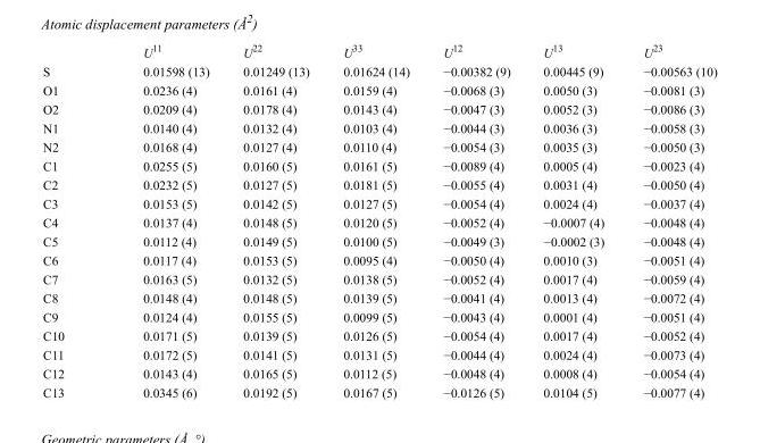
<table><thead><tr><td></td><td>U<sup>11</sup></td><td>U<sup>22</sup></td><td>U<sup>33</sup></td><td>U<sup>12</sup></td><td>U<sup>13</sup></td><td>U<sup>23</sup></td></tr></thead><tbody><tr><td>S</td><td>0.01598 (13)</td><td>0.01249 (13)</td><td>0.01624 (14)</td><td>−0.00382 (9)</td><td>0.00445 (9)</td><td>−0.00563 (10)</td></tr><tr><td>O1</td><td>0.0236 (4)</td><td>0.0161 (4)</td><td>0.0159 (4)</td><td>−0.0068 (3)</td><td>0.0050 (3)</td><td>−0.0081 (3)</td></tr><tr><td>O2</td><td>0.0209 (4)</td><td>0.0178 (4)</td><td>0.0143 (4)</td><td>−0.0047 (3)</td><td>0.0052 (3)</td><td>−0.0086 (3)</td></tr><tr><td>N1</td><td>0.0140 (4)</td><td>0.0132 (4)</td><td>0.0103 (4)</td><td>−0.0044 (3)</td><td>0.0036 (3)</td><td>−0.0058 (3)</td></tr><tr><td>N2</td><td>0.0168 (4)</td><td>0.0127 (4)</td><td>0.0110 (4)</td><td>−0.0054 (3)</td><td>0.0035 (3)</td><td>−0.0050 (3)</td></tr><tr><td>C1</td><td>0.0255 (5)</td><td>0.0160 (5)</td><td>0.0161 (5)</td><td>−0.0089 (4)</td><td>0.0005 (4)</td><td>−0.0023 (4)</td></tr><tr><td>C2</td><td>0.0232 (5)</td><td>0.0127 (5)</td><td>0.0181 (5)</td><td>−0.0055 (4)</td><td>0.0031 (4)</td><td>−0.0050 (4)</td></tr><tr><td>C3</td><td>0.0153 (5)</td><td>0.0142 (5)</td><td>0.0127 (5)</td><td>−0.0054 (4)</td><td>0.0024 (4)</td><td>−0.0037 (4)</td></tr><tr><td>C4</td><td>0.0137 (4)</td><td>0.0148 (5)</td><td>0.0120 (5)</td><td>−0.0052 (4)</td><td>−0.0007 (4)</td><td>−0.0048 (4)</td></tr><tr><td>C5</td><td>0.0112 (4)</td><td>0.0149 (5)</td><td>0.0100 (5)</td><td>−0.0049 (3)</td><td>−0.0002 (3)</td><td>−0.0048 (4)</td></tr><tr><td>C6</td><td>0.0117 (4)</td><td>0.0153 (5)</td><td>0.0095 (4)</td><td>−0.0050 (4)</td><td>0.0010 (3)</td><td>−0.0051 (4)</td></tr><tr><td>C7</td><td>0.0163 (5)</td><td>0.0132 (5)</td><td>0.0138 (5)</td><td>−0.0052 (4)</td><td>0.0017 (4)</td><td>−0.0059 (4)</td></tr><tr><td>C8</td><td>0.0148 (4)</td><td>0.0148 (5)</td><td>0.0139 (5)</td><td>−0.0041 (4)</td><td>0.0013 (4)</td><td>−0.0072 (4)</td></tr><tr><td>C9</td><td>0.0124 (4)</td><td>0.0155 (5)</td><td>0.0099 (5)</td><td>−0.0043 (4)</td><td>0.0001 (4)</td><td>−0.0051 (4)</td></tr><tr><td>C10</td><td>0.0171 (5)</td><td>0.0139 (5)</td><td>0.0126 (5)</td><td>−0.0054 (4)</td><td>0.0017 (4)</td><td>−0.0052 (4)</td></tr><tr><td>C11</td><td>0.0172 (5)</td><td>0.0141 (5)</td><td>0.0131 (5)</td><td>−0.0044 (4)</td><td>0.0024 (4)</td><td>−0.0073 (4)</td></tr><tr><td>C12</td><td>0.0143 (4)</td><td>0.0165 (5)</td><td>0.0112 (5)</td><td>−0.0048 (4)</td><td>0.0008 (4)</td><td>−0.0054 (4)</td></tr><tr><td>C13</td><td>0.0345 (6)</td><td>0.0192 (5)</td><td>0.0167 (5)</td><td>−0.0126 (5)</td><td>0.0104 (5)</td><td>−0.0077 (4)</td></tr></tbody></table>